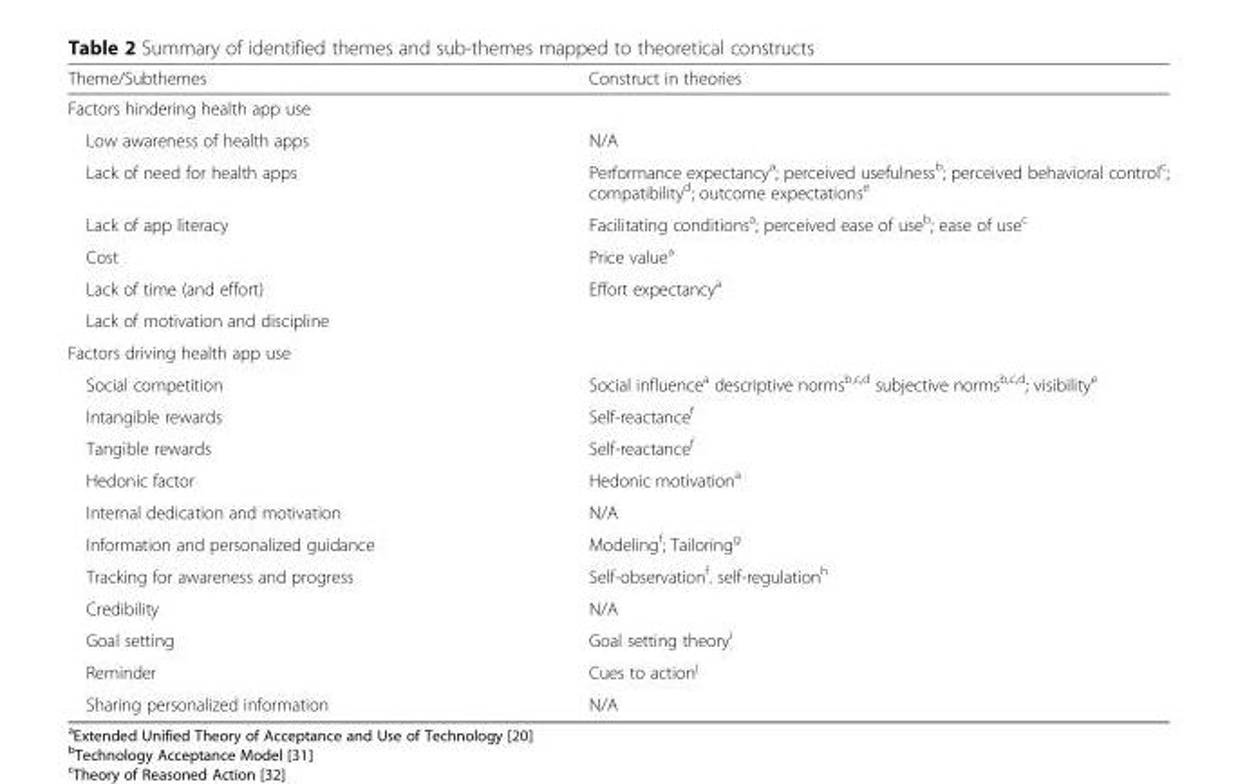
<table><thead><tr><td>Theme/Subthemes</td><td>Construct in theories</td></tr></thead><tbody><tr><td colspan="2">Factors hindering health app use</td></tr><tr><td>Low awareness of health apps</td><td>N/A</td></tr><tr><td>Lack of need for health apps</td><td>Performance expectancy<sup>a</sup>; perceived usefulness<sup>b</sup>; perceived behavioral control<sup>c</sup>; compatibility<sup>d</sup>; outcome expectations<sup>e</sup></td></tr><tr><td>Lack of app literacy</td><td>Facilitating conditions<sup>a</sup>; perceived ease of use<sup>b</sup>; ease of use<sup>c</sup></td></tr><tr><td>Cost</td><td>Price value<sup>a</sup></td></tr><tr><td>Lack of time (and effort)</td><td>Effort expectancy<sup>a</sup></td></tr><tr><td colspan="2">Lack of motivation and discipline</td></tr><tr><td colspan="2">Factors driving health app use</td></tr><tr><td>Social competition</td><td>Social influence<sup>a</sup> descriptive norms<sup>b,c,d</sup> subjective norms<sup>b,c,d</sup>; visibility<sup>e</sup></td></tr><tr><td>Intangible rewards</td><td>Self-reactance<sup>f</sup></td></tr><tr><td>Tangible rewards</td><td>Self-reactance<sup>f</sup></td></tr><tr><td>Hedonic factor</td><td>Hedonic motivation<sup>a</sup></td></tr><tr><td>Internal dedication and motivation</td><td>N/A</td></tr><tr><td>Information and personalized guidance</td><td>Modeling<sup>f</sup>; Tailoring<sup>g</sup></td></tr><tr><td>Tracking for awareness and progress</td><td>Self-observation<sup>f</sup>. self-regulation<sup>h</sup></td></tr><tr><td>Credibility</td><td>N/A</td></tr><tr><td>Goal setting</td><td>Goal setting theory<sup>i</sup></td></tr><tr><td>Reminder</td><td>Cues to action<sup>j</sup></td></tr><tr><td>Sharing personalized information</td><td>N/A</td></tr></tbody></table>